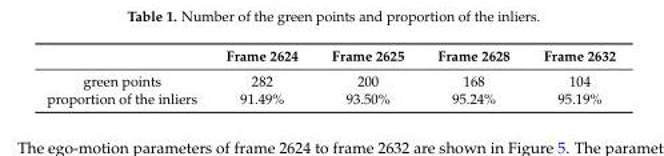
<table><thead><tr><td></td><td>Frame 2624</td><td>Frame 2625</td><td>Frame 2628</td><td>Frame 2632</td></tr></thead><tbody><tr><td>green points</td><td>282</td><td>200</td><td>168</td><td>104</td></tr><tr><td>proportion of the inliers</td><td>91.49%</td><td>93.50%</td><td>95.24%</td><td>95.19%</td></tr></tbody></table>